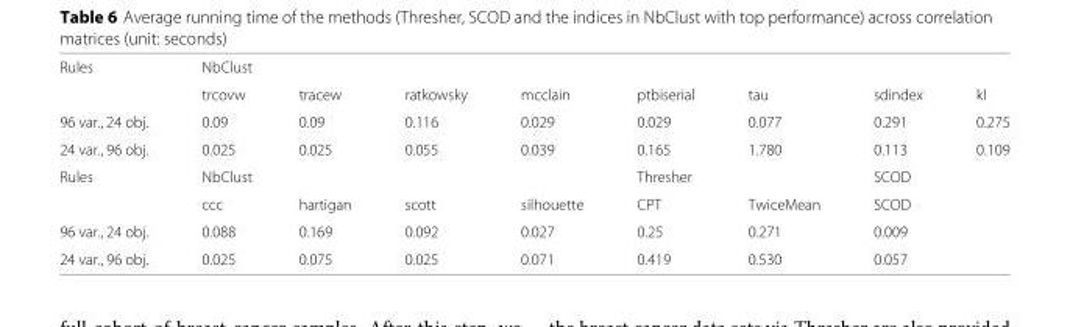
<table><tbody><tr><td rowspan="2">Rules</td><td colspan="4">NbClust</td><td colspan="4"></td></tr><tr><td>trcovw</td><td>tracew</td><td>ratkowsky</td><td>mcclain</td><td>ptbiserial</td><td>tau</td><td>sdindex</td><td>kl</td></tr><tr><td>96 var., 24 obj.</td><td>0.09</td><td>0.09</td><td>0.116</td><td>0.029</td><td>0.029</td><td>0.077</td><td>0.291</td><td>0.275</td></tr><tr><td>24 var., 96 obj.</td><td>0.025</td><td>0.025</td><td>0.055</td><td>0.039</td><td>0.165</td><td>1.780</td><td>0.113</td><td>0.109</td></tr><tr><td rowspan="2">Rules</td><td colspan="4">NbClust</td><td colspan="2">Thresher</td><td>SCOD</td><td></td></tr><tr><td>ccc</td><td>hartigan</td><td>scott</td><td>silhouette</td><td>CPT</td><td>TwiceMean</td><td>SCOD</td><td></td></tr><tr><td>96 var., 24 obj.</td><td>0.088</td><td>0.169</td><td>0.092</td><td>0.027</td><td>0.25</td><td>0.271</td><td>0.009</td><td></td></tr><tr><td>24 var., 96 obj.</td><td>0.025</td><td>0.075</td><td>0.025</td><td>0.071</td><td>0.419</td><td>0.530</td><td>0.057</td><td></td></tr></tbody></table>